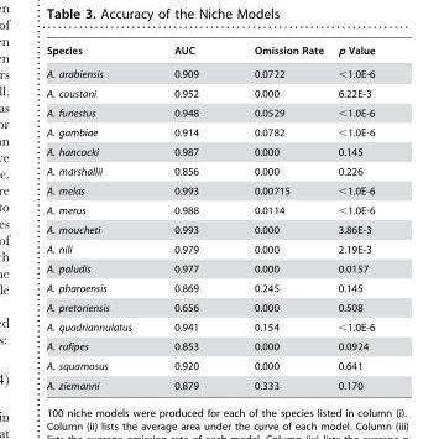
<table><thead><tr><td>Species</td><td>AUC</td><td>Omission Rate</td><td>p Value</td></tr></thead><tbody><tr><td>A. arabiensis</td><td>0.909</td><td>0.0722</td><td>&lt;1.0E-6</td></tr><tr><td>A. coustani</td><td>0.952</td><td>0.000</td><td>6.22E-3</td></tr><tr><td>A. funestus</td><td>0.948</td><td>0.0529</td><td>&lt;1.0E-6</td></tr><tr><td>A. gambiae</td><td>0.914</td><td>0.0782</td><td>&lt;1.0E-6</td></tr><tr><td>A. hancocki</td><td>0.987</td><td>0.000</td><td>0.145</td></tr><tr><td>A. marshallii</td><td>0.856</td><td>0.000</td><td>0.226</td></tr><tr><td>A. melas</td><td>0.993</td><td>0.00715</td><td>&lt;1.0E-6</td></tr><tr><td>A. merus</td><td>0.988</td><td>0.0114</td><td>&lt;1.0E-6</td></tr><tr><td>A. moucheti</td><td>0.993</td><td>0.000</td><td>3.86E-3</td></tr><tr><td>A. nili</td><td>0.979</td><td>0.000</td><td>2.19E-3</td></tr><tr><td>A. paludis</td><td>0.977</td><td>0.000</td><td>0.0157</td></tr><tr><td>A. pharoensis</td><td>0.869</td><td>0.245</td><td>0.145</td></tr><tr><td>A. pretoriensis</td><td>0.656</td><td>0.000</td><td>0.508</td></tr><tr><td>A. quadriannulatus</td><td>0.941</td><td>0.154</td><td>&lt;1.0E-6</td></tr><tr><td>A. rufipes</td><td>0.853</td><td>0.000</td><td>0.0924</td></tr><tr><td>A. squamosus</td><td>0.920</td><td>0.000</td><td>0.641</td></tr><tr><td>A. ziemanni</td><td>0.879</td><td>0.333</td><td>0.170</td></tr></tbody></table>